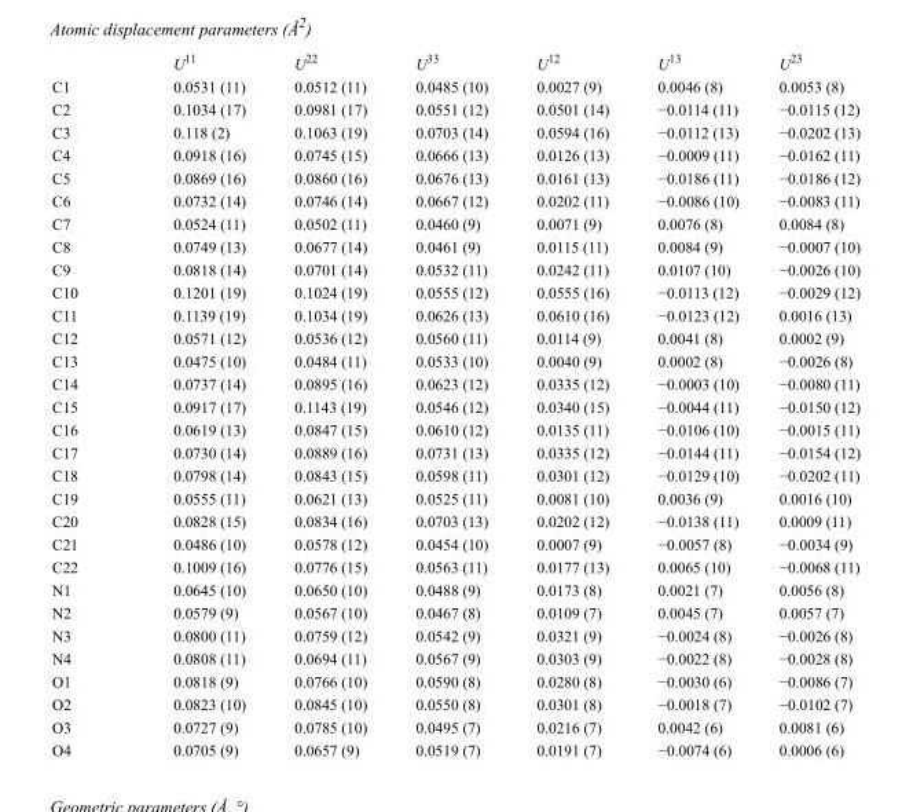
<table><thead><tr><td></td><td>U<sup>11</sup></td><td>U<sup>22</sup></td><td>U<sup>33</sup></td><td>U<sup>12</sup></td><td>U<sup>13</sup></td><td>U<sup>23</sup></td></tr></thead><tbody><tr><td>C1</td><td>0.0531 (11)</td><td>0.0512 (11)</td><td>0.0485 (10)</td><td>0.0027 (9)</td><td>0.0046 (8)</td><td>0.0053 (8)</td></tr><tr><td>C2</td><td>0.1034 (17)</td><td>0.0981 (17)</td><td>0.0551 (12)</td><td>0.0501 (14)</td><td>−0.0114 (11)</td><td>−0.0115 (12)</td></tr><tr><td>C3</td><td>0.118 (2)</td><td>0.1063 (19)</td><td>0.0703 (14)</td><td>0.0594 (16)</td><td>−0.0112 (13)</td><td>−0.0202 (13)</td></tr><tr><td>C4</td><td>0.0918 (16)</td><td>0.0745 (15)</td><td>0.0666 (13)</td><td>0.0126 (13)</td><td>−0.0009 (11)</td><td>−0.0162 (11)</td></tr><tr><td>C5</td><td>0.0869 (16)</td><td>0.0860 (16)</td><td>0.0676 (13)</td><td>0.0161 (13)</td><td>−0.0186 (11)</td><td>−0.0186 (12)</td></tr><tr><td>C6</td><td>0.0732 (14)</td><td>0.0746 (14)</td><td>0.0667 (12)</td><td>0.0202 (11)</td><td>−0.0086 (10)</td><td>−0.0083 (11)</td></tr><tr><td>C7</td><td>0.0524 (11)</td><td>0.0502 (11)</td><td>0.0460 (9)</td><td>0.0071 (9)</td><td>0.0076 (8)</td><td>0.0084 (8)</td></tr><tr><td>C8</td><td>0.0749 (13)</td><td>0.0677 (14)</td><td>0.0461 (9)</td><td>0.0115 (11)</td><td>0.0084 (9)</td><td>−0.0007 (10)</td></tr><tr><td>C9</td><td>0.0818 (14)</td><td>0.0701 (14)</td><td>0.0532 (11)</td><td>0.0242 (11)</td><td>0.0107 (10)</td><td>−0.0026 (10)</td></tr><tr><td>C10</td><td>0.1201 (19)</td><td>0.1024 (19)</td><td>0.0555 (12)</td><td>0.0555 (16)</td><td>−0.0113 (12)</td><td>−0.0029 (12)</td></tr><tr><td>C11</td><td>0.1139 (19)</td><td>0.1034 (19)</td><td>0.0626 (13)</td><td>0.0610 (16)</td><td>−0.0123 (12)</td><td>0.0016 (13)</td></tr><tr><td>C12</td><td>0.0571 (12)</td><td>0.0536 (12)</td><td>0.0560 (11)</td><td>0.0114 (9)</td><td>0.0041 (8)</td><td>0.0002 (9)</td></tr><tr><td>C13</td><td>0.0475 (10)</td><td>0.0484 (11)</td><td>0.0533 (10)</td><td>0.0040 (9)</td><td>0.0002 (8)</td><td>−0.0026 (8)</td></tr><tr><td>C14</td><td>0.0737 (14)</td><td>0.0895 (16)</td><td>0.0623 (12)</td><td>0.0335 (12)</td><td>−0.0003 (10)</td><td>−0.0080 (11)</td></tr><tr><td>C15</td><td>0.0917 (17)</td><td>0.1143 (19)</td><td>0.0546 (12)</td><td>0.0340 (15)</td><td>−0.0044 (11)</td><td>−0.0150 (12)</td></tr><tr><td>C16</td><td>0.0619 (13)</td><td>0.0847 (15)</td><td>0.0610 (12)</td><td>0.0135 (11)</td><td>−0.0106 (10)</td><td>−0.0015 (11)</td></tr><tr><td>C17</td><td>0.0730 (14)</td><td>0.0889 (16)</td><td>0.0731 (13)</td><td>0.0335 (12)</td><td>−0.0144 (11)</td><td>−0.0154 (12)</td></tr><tr><td>C18</td><td>0.0798 (14)</td><td>0.0843 (15)</td><td>0.0598 (11)</td><td>0.0301 (12)</td><td>−0.0129 (10)</td><td>−0.0202 (11)</td></tr><tr><td>C19</td><td>0.0555 (11)</td><td>0.0621 (13)</td><td>0.0525 (11)</td><td>0.0081 (10)</td><td>0.0036 (9)</td><td>0.0016 (10)</td></tr><tr><td>C20</td><td>0.0828 (15)</td><td>0.0834 (16)</td><td>0.0703 (13)</td><td>0.0202 (12)</td><td>−0.0138 (11)</td><td>0.0009 (11)</td></tr><tr><td>C21</td><td>0.0486 (10)</td><td>0.0578 (12)</td><td>0.0454 (10)</td><td>0.0007 (9)</td><td>−0.0057 (8)</td><td>−0.0034 (9)</td></tr><tr><td>C22</td><td>0.1009 (16)</td><td>0.0776 (15)</td><td>0.0563 (11)</td><td>0.0177 (13)</td><td>0.0065 (10)</td><td>−0.0068 (11)</td></tr><tr><td>N1</td><td>0.0645 (10)</td><td>0.0650 (10)</td><td>0.0488 (9)</td><td>0.0173 (8)</td><td>0.0021 (7)</td><td>0.0056 (8)</td></tr><tr><td>N2</td><td>0.0579 (9)</td><td>0.0567 (10)</td><td>0.0467 (8)</td><td>0.0109 (7)</td><td>0.0045 (7)</td><td>0.0057 (7)</td></tr><tr><td>N3</td><td>0.0800 (11)</td><td>0.0759 (12)</td><td>0.0542 (9)</td><td>0.0321 (9)</td><td>−0.0024 (8)</td><td>−0.0026 (8)</td></tr><tr><td>N4</td><td>0.0808 (11)</td><td>0.0694 (11)</td><td>0.0567 (9)</td><td>0.0303 (9)</td><td>−0.0022 (8)</td><td>−0.0028 (8)</td></tr><tr><td>O1</td><td>0.0818 (9)</td><td>0.0766 (10)</td><td>0.0590 (8)</td><td>0.0280 (8)</td><td>−0.0030 (6)</td><td>−0.0086 (7)</td></tr><tr><td>O2</td><td>0.0823 (10)</td><td>0.0845 (10)</td><td>0.0550 (8)</td><td>0.0301 (8)</td><td>−0.0018 (7)</td><td>−0.0102 (7)</td></tr><tr><td>O3</td><td>0.0727 (9)</td><td>0.0785 (10)</td><td>0.0495 (7)</td><td>0.0216 (7)</td><td>0.0042 (6)</td><td>0.0081 (6)</td></tr><tr><td>O4</td><td>0.0705 (9)</td><td>0.0657 (9)</td><td>0.0519 (7)</td><td>0.0191 (7)</td><td>−0.0074 (6)</td><td>0.0006 (6)</td></tr></tbody></table>